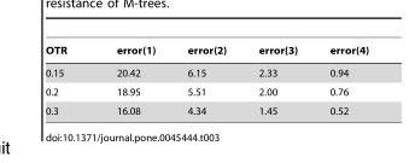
<table><thead><tr><td>OTR</td><td>error(1)</td><td>error(2)</td><td>error(3)</td><td>error(4)</td></tr></thead><tbody><tr><td>0.15</td><td>20.42</td><td>6.15</td><td>2.33</td><td>0.94</td></tr><tr><td>0.2</td><td>18.95</td><td>5.51</td><td>2.00</td><td>0.76</td></tr><tr><td>0.3</td><td>16.08</td><td>4.34</td><td>1.45</td><td>0.52</td></tr></tbody></table>